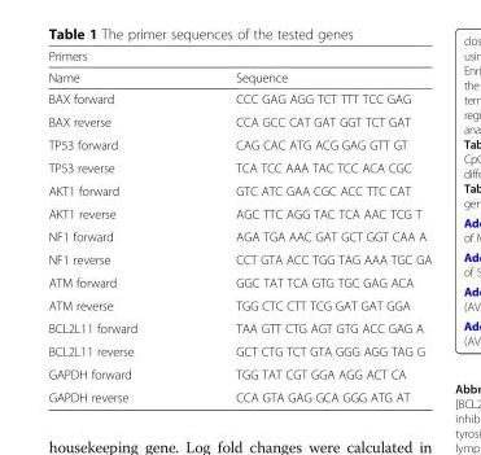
<table><thead><tr><td colspan="2">Primers</td></tr><tr><td>Name</td><td>Sequence</td></tr></thead><tbody><tr><td>BAX forward</td><td>CCC GAG AGG TCT TTT TCC GAG</td></tr><tr><td>BAX reverse</td><td>CCA GCC CAT GAT GGT TCT GAT</td></tr><tr><td>TP53 forward</td><td>CAG CAC ATG ACG GAG GTT GT</td></tr><tr><td>TP53 reverse</td><td>TCA TCC AAA TAC TCC ACA CGC</td></tr><tr><td>AKT1 forward</td><td>GTC ATC GAA CGC ACC TTC CAT</td></tr><tr><td>AKT1 reverse</td><td>AGC TTC AGG TAC TCA AAC TCG T</td></tr><tr><td>NF1 forward</td><td>AGA TGA AAC GAT GCT GGT CAA A</td></tr><tr><td>NF1 reverse</td><td>CCT GTA ACC TGG TAG AAA TGC GA</td></tr><tr><td>ATM forward</td><td>GGC TAT TCA GTG TGC GAG ACA</td></tr><tr><td>ATM reverse</td><td>TGG CTC CTT TCG GAT GAT GGA</td></tr><tr><td>BCL2L11 forward</td><td>TAA GTT CTG AGT GTG ACC GAG A</td></tr><tr><td>BCL2L11 reverse</td><td>GCT CTG TCT GTA GGG AGG TAG G</td></tr><tr><td>GAPDH forward</td><td>TGG TAT CGT GGA AGG ACT CA</td></tr><tr><td>GAPDH reverse</td><td>CCA GTA GAG GCA GGG ATG AT</td></tr></tbody></table>